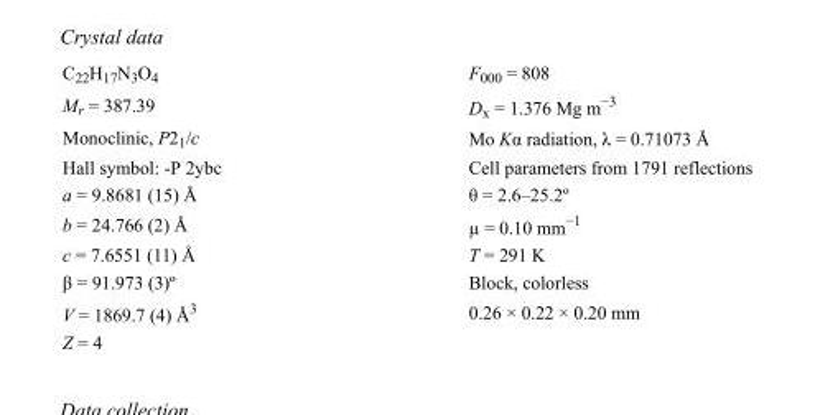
<table><tbody><tr><td>C<sub>22</sub>H<sub>17</sub>N<sub>3</sub>O<sub>4</sub></td><td>F000 = 808</td></tr><tr><td>M<sub>r</sub> = 387.39</td><td>D<sub>x</sub> = 1.376 Mg m<sup>−3</sup></td></tr><tr><td>Monoclinic, P2<sub>1</sub>/c</td><td>Mo Kα radiation, λ = 0.71073 Å</td></tr><tr><td>Hall symbol: -P 2ybc</td><td>Cell parameters from 1791 reflections</td></tr><tr><td>a = 9.8681 (15) Å</td><td>θ = 2.6–25.2º</td></tr><tr><td>b = 24.766 (2) Å</td><td>µ = 0.10 mm<sup>−1</sup></td></tr><tr><td>c = 7.6551 (11) Å</td><td>T = 291 K</td></tr><tr><td>β = 91.973 (3)º</td><td>Block, colorless</td></tr><tr><td>V = 1869.7 (4) Å<sup>3</sup></td><td>0.26 × 0.22 × 0.20 mm</td></tr><tr><td>Z = 4</td><td></td></tr></tbody></table>